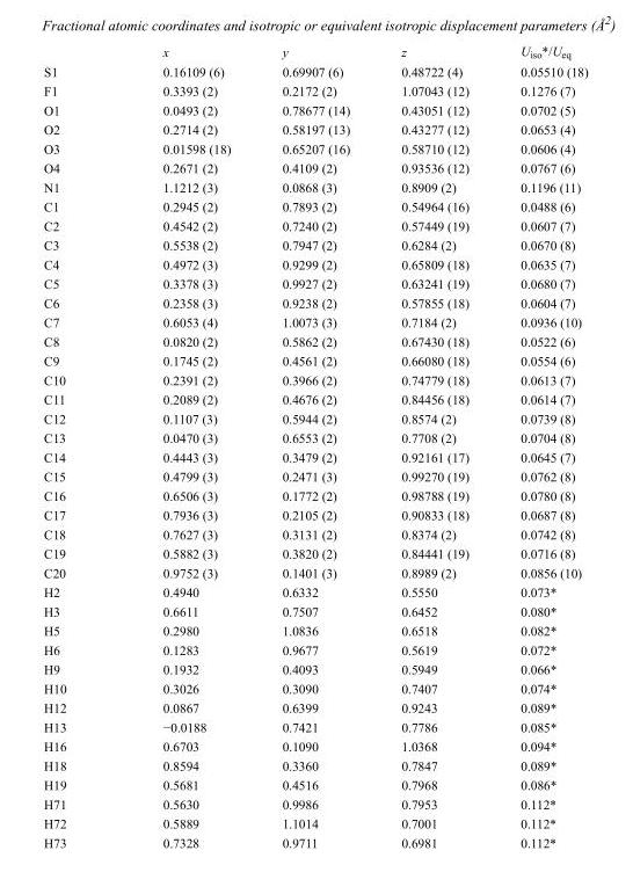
<table><thead><tr><td></td><td>x</td><td>y</td><td>z</td><td>U<sub>iso</sub>*/U<sub>eq</sub></td></tr></thead><tbody><tr><td>S1</td><td>0.16109 (6)</td><td>0.69907 (6)</td><td>0.48722 (4)</td><td>0.05510 (18)</td></tr><tr><td>F1</td><td>0.3393 (2)</td><td>0.2172 (2)</td><td>1.07043 (12)</td><td>0.1276 (7)</td></tr><tr><td>O1</td><td>0.0493 (2)</td><td>0.78677 (14)</td><td>0.43051 (12)</td><td>0.0702 (5)</td></tr><tr><td>O2</td><td>0.2714 (2)</td><td>0.58197 (13)</td><td>0.43277 (12)</td><td>0.0653 (4)</td></tr><tr><td>O3</td><td>0.01598 (18)</td><td>0.65207 (16)</td><td>0.58710 (12)</td><td>0.0606 (4)</td></tr><tr><td>O4</td><td>0.2671 (2)</td><td>0.4109 (2)</td><td>0.93536 (12)</td><td>0.0767 (6)</td></tr><tr><td>N1</td><td>1.1212 (3)</td><td>0.0868 (3)</td><td>0.8909 (2)</td><td>0.1196 (11)</td></tr><tr><td>C1</td><td>0.2945 (2)</td><td>0.7893 (2)</td><td>0.54964 (16)</td><td>0.0488 (6)</td></tr><tr><td>C2</td><td>0.4542 (2)</td><td>0.7240 (2)</td><td>0.57449 (19)</td><td>0.0607 (7)</td></tr><tr><td>C3</td><td>0.5538 (2)</td><td>0.7947 (2)</td><td>0.6284 (2)</td><td>0.0670 (8)</td></tr><tr><td>C4</td><td>0.4972 (3)</td><td>0.9299 (2)</td><td>0.65809 (18)</td><td>0.0635 (7)</td></tr><tr><td>C5</td><td>0.3378 (3)</td><td>0.9927 (2)</td><td>0.63241 (19)</td><td>0.0680 (7)</td></tr><tr><td>C6</td><td>0.2358 (3)</td><td>0.9238 (2)</td><td>0.57855 (18)</td><td>0.0604 (7)</td></tr><tr><td>C7</td><td>0.6053 (4)</td><td>1.0073 (3)</td><td>0.7184 (2)</td><td>0.0936 (10)</td></tr><tr><td>C8</td><td>0.0820 (2)</td><td>0.5862 (2)</td><td>0.67430 (18)</td><td>0.0522 (6)</td></tr><tr><td>C9</td><td>0.1745 (2)</td><td>0.4561 (2)</td><td>0.66080 (18)</td><td>0.0554 (6)</td></tr><tr><td>C10</td><td>0.2391 (2)</td><td>0.3966 (2)</td><td>0.74779 (18)</td><td>0.0613 (7)</td></tr><tr><td>C11</td><td>0.2089 (2)</td><td>0.4676 (2)</td><td>0.84456 (18)</td><td>0.0614 (7)</td></tr><tr><td>C12</td><td>0.1107 (3)</td><td>0.5944 (2)</td><td>0.8574 (2)</td><td>0.0739 (8)</td></tr><tr><td>C13</td><td>0.0470 (3)</td><td>0.6553 (2)</td><td>0.7708 (2)</td><td>0.0704 (8)</td></tr><tr><td>C14</td><td>0.4443 (3)</td><td>0.3479 (2)</td><td>0.92161 (17)</td><td>0.0645 (7)</td></tr><tr><td>C15</td><td>0.4799 (3)</td><td>0.2471 (3)</td><td>0.99270 (19)</td><td>0.0762 (8)</td></tr><tr><td>C16</td><td>0.6506 (3)</td><td>0.1772 (2)</td><td>0.98788 (19)</td><td>0.0780 (8)</td></tr><tr><td>C17</td><td>0.7936 (3)</td><td>0.2105 (2)</td><td>0.90833 (18)</td><td>0.0687 (8)</td></tr><tr><td>C18</td><td>0.7627 (3)</td><td>0.3131 (2)</td><td>0.8374 (2)</td><td>0.0742 (8)</td></tr><tr><td>C19</td><td>0.5882 (3)</td><td>0.3820 (2)</td><td>0.84441 (19)</td><td>0.0716 (8)</td></tr><tr><td>C20</td><td>0.9752 (3)</td><td>0.1401 (3)</td><td>0.8989 (2)</td><td>0.0856 (10)</td></tr><tr><td>H2</td><td>0.4940</td><td>0.6332</td><td>0.5550</td><td>0.073*</td></tr><tr><td>H3</td><td>0.6611</td><td>0.7507</td><td>0.6452</td><td>0.080*</td></tr><tr><td>H5</td><td>0.2980</td><td>1.0836</td><td>0.6518</td><td>0.082*</td></tr><tr><td>H6</td><td>0.1283</td><td>0.9677</td><td>0.5619</td><td>0.072*</td></tr><tr><td>H9</td><td>0.1932</td><td>0.4093</td><td>0.5949</td><td>0.066*</td></tr><tr><td>H10</td><td>0.3026</td><td>0.3090</td><td>0.7407</td><td>0.074*</td></tr><tr><td>H12</td><td>0.0867</td><td>0.6399</td><td>0.9243</td><td>0.089*</td></tr><tr><td>H13</td><td>−0.0188</td><td>0.7421</td><td>0.7786</td><td>0.085*</td></tr><tr><td>H16</td><td>0.6703</td><td>0.1090</td><td>1.0368</td><td>0.094*</td></tr><tr><td>H18</td><td>0.8594</td><td>0.3360</td><td>0.7847</td><td>0.089*</td></tr><tr><td>H19</td><td>0.5681</td><td>0.4516</td><td>0.7968</td><td>0.086*</td></tr><tr><td>H71</td><td>0.5630</td><td>0.9986</td><td>0.7953</td><td>0.112*</td></tr><tr><td>H72</td><td>0.5889</td><td>1.1014</td><td>0.7001</td><td>0.112*</td></tr><tr><td>H73</td><td>0.7328</td><td>0.9711</td><td>0.6981</td><td>0.112*</td></tr></tbody></table>